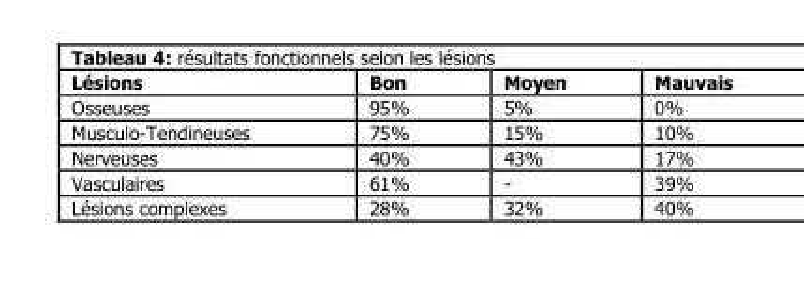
<table><thead><tr><td>Lésions</td><td>Bon</td><td>Moyen</td><td>Mauvais</td></tr></thead><tbody><tr><td>Osseuses</td><td>95%</td><td>5%</td><td>0%</td></tr><tr><td>Musculo-Tendineuses</td><td>75%</td><td>15%</td><td>10%</td></tr><tr><td>Nerveuses</td><td>40%</td><td>43%</td><td>17%</td></tr><tr><td>Vasculaires</td><td>61%</td><td>-</td><td>39%</td></tr><tr><td>Lésions complexes</td><td>28%</td><td>32%</td><td>40%</td></tr></tbody></table>